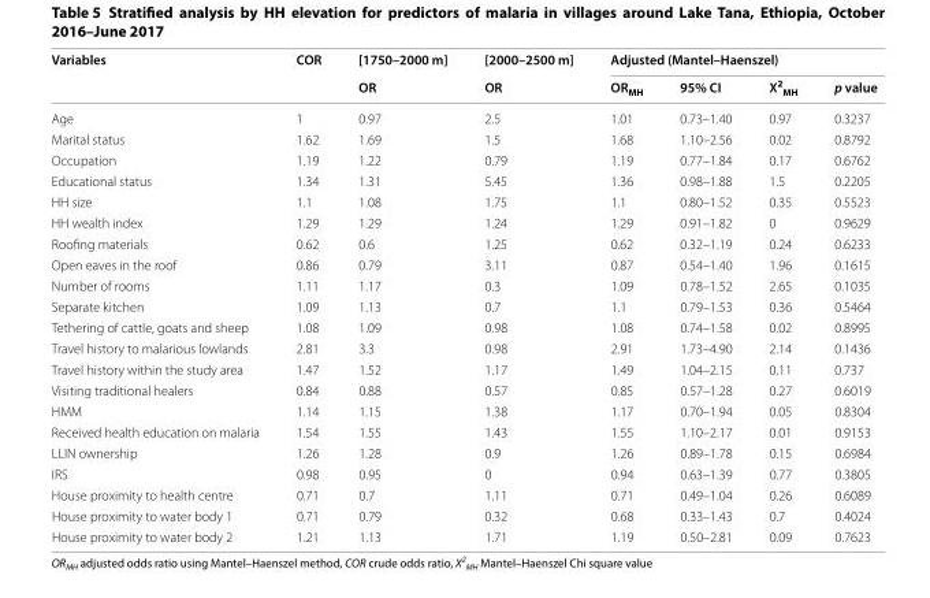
<table><thead><tr><td rowspan="2">Variables</td><td rowspan="2">COR</td><td rowspan="2">[1750–2000 m] OR</td><td rowspan="2">[2000–2500 m] OR</td><td colspan="4">Adjusted (Mantel–Haenszel)</td></tr><tr><td>OR<sub>MH</sub></td><td>95% CI</td><td>X<sup>2</sup> <sub>MH</sub></td><td>p value</td></tr></thead><tbody><tr><td>Age</td><td>1</td><td>0.97</td><td>2.5</td><td>1.01</td><td>0.73–1.40</td><td>0.97</td><td>0.3237</td></tr><tr><td>Marital status</td><td>1.62</td><td>1.69</td><td>1.5</td><td>1.68</td><td>1.10–2.56</td><td>0.02</td><td>0.8792</td></tr><tr><td>Occupation</td><td>1.19</td><td>1.22</td><td>0.79</td><td>1.19</td><td>0.77–1.84</td><td>0.17</td><td>0.6762</td></tr><tr><td>Educational status</td><td>1.34</td><td>1.31</td><td>5.45</td><td>1.36</td><td>0.98–1.88</td><td>1.5</td><td>0.2205</td></tr><tr><td>HH size</td><td>1.1</td><td>1.08</td><td>1.75</td><td>1.1</td><td>0.80–1.52</td><td>0.35</td><td>0.5523</td></tr><tr><td>HH wealth index</td><td>1.29</td><td>1.29</td><td>1.24</td><td>1.29</td><td>0.91–1.82</td><td>0</td><td>0.9629</td></tr><tr><td>Roofing materials</td><td>0.62</td><td>0.6</td><td>1.25</td><td>0.62</td><td>0.32–1.19</td><td>0.24</td><td>0.6233</td></tr><tr><td>Open eaves in the roof</td><td>0.86</td><td>0.79</td><td>3.11</td><td>0.87</td><td>0.54–1.40</td><td>1.96</td><td>0.1615</td></tr><tr><td>Number of rooms</td><td>1.11</td><td>1.17</td><td>0.3</td><td>1.09</td><td>0.78–1.52</td><td>2.65</td><td>0.1035</td></tr><tr><td>Separate kitchen</td><td>1.09</td><td>1.13</td><td>0.7</td><td>1.1</td><td>0.79–1.53</td><td>0.36</td><td>0.5464</td></tr><tr><td>Tethering of cattle, goats and sheep</td><td>1.08</td><td>1.09</td><td>0.98</td><td>1.08</td><td>0.74–1.58</td><td>0.02</td><td>0.8995</td></tr><tr><td>Travel history to malarious lowlands</td><td>2.81</td><td>3.3</td><td>0.98</td><td>2.91</td><td>1.73–4.90</td><td>2.14</td><td>0.1436</td></tr><tr><td>Travel history within the study area</td><td>1.47</td><td>1.52</td><td>1.17</td><td>1.49</td><td>1.04–2.15</td><td>0.11</td><td>0.737</td></tr><tr><td>Visiting traditional healers</td><td>0.84</td><td>0.88</td><td>0.57</td><td>0.85</td><td>0.57–1.28</td><td>0.27</td><td>0.6019</td></tr><tr><td>HMM</td><td>1.14</td><td>1.15</td><td>1.38</td><td>1.17</td><td>0.70–1.94</td><td>0.05</td><td>0.8304</td></tr><tr><td>Received health education on malaria</td><td>1.54</td><td>1.55</td><td>1.43</td><td>1.55</td><td>1.10–2.17</td><td>0.01</td><td>0.9153</td></tr><tr><td>LLIN ownership</td><td>1.26</td><td>1.28</td><td>0.9</td><td>1.26</td><td>0.89–1.78</td><td>0.15</td><td>0.6984</td></tr><tr><td>IRS</td><td>0.98</td><td>0.95</td><td>0</td><td>0.94</td><td>0.63–1.39</td><td>0.77</td><td>0.3805</td></tr><tr><td>House proximity to health centre</td><td>0.71</td><td>0.7</td><td>1.11</td><td>0.71</td><td>0.49–1.04</td><td>0.26</td><td>0.6089</td></tr><tr><td>House proximity to water body 1</td><td>0.71</td><td>0.79</td><td>0.32</td><td>0.68</td><td>0.33–1.43</td><td>0.7</td><td>0.4024</td></tr><tr><td>House proximity to water body 2</td><td>1.21</td><td>1.13</td><td>1.71</td><td>1.19</td><td>0.50–2.81</td><td>0.09</td><td>0.7623</td></tr></tbody></table>